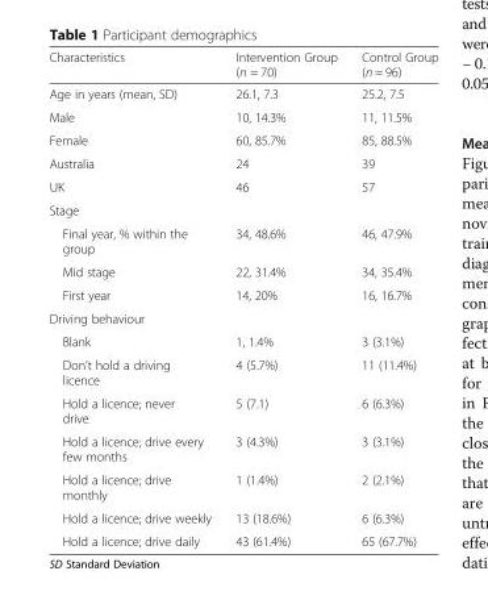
<table><thead><tr><td>Characteristics</td><td>Intervention Group (n = 70)</td><td>Control Group (n = 96)</td></tr></thead><tbody><tr><td>Age in years (mean, SD)</td><td>26.1, 7.3</td><td>25.2, 7.5</td></tr><tr><td>Male</td><td>10, 14.3%</td><td>11, 11.5%</td></tr><tr><td>Female</td><td>60, 85.7%</td><td>85, 88.5%</td></tr><tr><td>Australia</td><td>24</td><td>39</td></tr><tr><td>UK</td><td>46</td><td>57</td></tr><tr><td colspan="3">Stage</td></tr><tr><td>Final year, % within the group</td><td>34, 48.6%</td><td>46, 47.9%</td></tr><tr><td>Mid stage</td><td>22, 31.4%</td><td>34, 35.4%</td></tr><tr><td>First year</td><td>14, 20%</td><td>16, 16.7%</td></tr><tr><td colspan="3">Driving behaviour</td></tr><tr><td>Blank</td><td>1, 1.4%</td><td>3 (3.1%)</td></tr><tr><td>Don’t hold a driving licence</td><td>4 (5.7%)</td><td>11 (11.4%)</td></tr><tr><td>Hold a licence; never drive</td><td>5 (7.1)</td><td>6 (6.3%)</td></tr><tr><td>Hold a licence; drive every few months</td><td>3 (4.3%)</td><td>3 (3.1%)</td></tr><tr><td>Hold a licence; drive monthly</td><td>1 (1.4%)</td><td>2 (2.1%)</td></tr><tr><td>Hold a licence; drive weekly</td><td>13 (18.6%)</td><td>6 (6.3%)</td></tr><tr><td>Hold a licence; drive daily</td><td>43 (61.4%)</td><td>65 (67.7%)</td></tr></tbody></table>